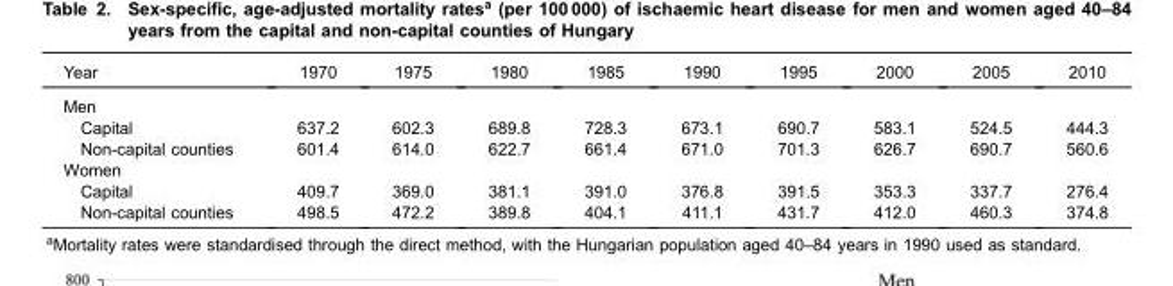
<table><thead><tr><td>Year</td><td>1970</td><td>1975</td><td>1980</td><td>1985</td><td>1990</td><td>1995</td><td>2000</td><td>2005</td><td>2010</td></tr></thead><tbody><tr><td colspan="10">Men</td></tr><tr><td>Capital</td><td>637.2</td><td>602.3</td><td>689.8</td><td>728.3</td><td>673.1</td><td>690.7</td><td>583.1</td><td>524.5</td><td>444.3</td></tr><tr><td>Non-capital counties</td><td>601.4</td><td>614.0</td><td>622.7</td><td>661.4</td><td>671.0</td><td>701.3</td><td>626.7</td><td>690.7</td><td>560.6</td></tr><tr><td colspan="10">Women</td></tr><tr><td>Capital</td><td>409.7</td><td>369.0</td><td>381.1</td><td>391.0</td><td>376.8</td><td>391.5</td><td>353.3</td><td>337.7</td><td>276.4</td></tr><tr><td>Non-capital counties</td><td>498.5</td><td>472.2</td><td>389.8</td><td>404.1</td><td>411.1</td><td>431.7</td><td>412.0</td><td>460.3</td><td>374.8</td></tr></tbody></table>